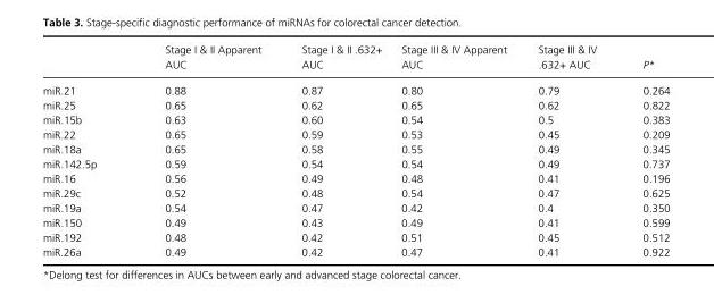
<table><thead><tr><td></td><td>Stage I &amp; II Apparent AUC</td><td>Stage I &amp; II .632+ AUC</td><td>Stage III &amp; IV Apparent AUC</td><td>Stage III &amp; IV .632+ AUC</td><td>P*</td></tr></thead><tbody><tr><td>miR.21</td><td>0.88</td><td>0.87</td><td>0.80</td><td>0.79</td><td>0.264</td></tr><tr><td>miR.25</td><td>0.65</td><td>0.62</td><td>0.65</td><td>0.62</td><td>0.822</td></tr><tr><td>miR.15b</td><td>0.63</td><td>0.60</td><td>0.54</td><td>0.5</td><td>0.383</td></tr><tr><td>miR.22</td><td>0.65</td><td>0.59</td><td>0.53</td><td>0.45</td><td>0.209</td></tr><tr><td>miR.18a</td><td>0.65</td><td>0.58</td><td>0.55</td><td>0.49</td><td>0.345</td></tr><tr><td>miR.142.5p</td><td>0.59</td><td>0.54</td><td>0.54</td><td>0.49</td><td>0.737</td></tr><tr><td>miR.16</td><td>0.56</td><td>0.49</td><td>0.48</td><td>0.41</td><td>0.196</td></tr><tr><td>miR.29c</td><td>0.52</td><td>0.48</td><td>0.54</td><td>0.47</td><td>0.625</td></tr><tr><td>miR.19a</td><td>0.54</td><td>0.47</td><td>0.42</td><td>0.4</td><td>0.350</td></tr><tr><td>miR.150</td><td>0.49</td><td>0.43</td><td>0.49</td><td>0.41</td><td>0.599</td></tr><tr><td>miR.192</td><td>0.48</td><td>0.42</td><td>0.51</td><td>0.45</td><td>0.512</td></tr><tr><td>miR.26a</td><td>0.49</td><td>0.42</td><td>0.47</td><td>0.41</td><td>0.922</td></tr></tbody></table>